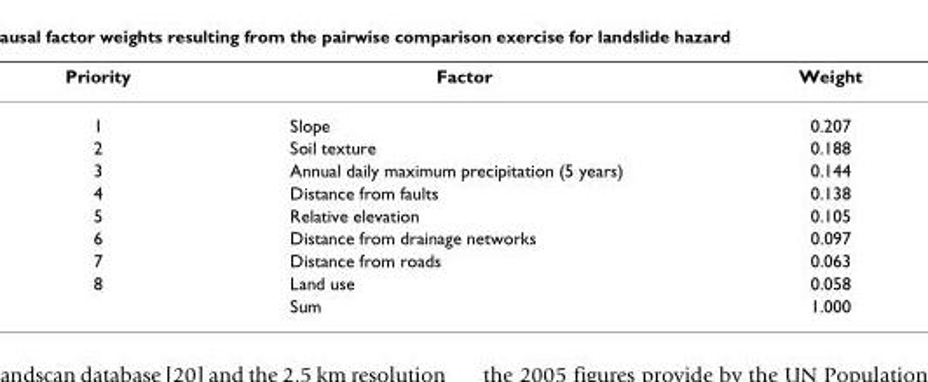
<table><thead><tr><td>Priority</td><td>Factor</td><td>Weight</td></tr></thead><tbody><tr><td>1</td><td>Slope</td><td>0.207</td></tr><tr><td>2</td><td>Soil texture</td><td>0.188</td></tr><tr><td>3</td><td>Annual daily maximum precipitation (5 years)</td><td>0.144</td></tr><tr><td>4</td><td>Distance from faults</td><td>0.138</td></tr><tr><td>5</td><td>Relative elevation</td><td>0.105</td></tr><tr><td>6</td><td>Distance from drainage networks</td><td>0.097</td></tr><tr><td>7</td><td>Distance from roads</td><td>0.063</td></tr><tr><td rowspan="2">8</td><td>Land use</td><td>0.058</td></tr><tr><td>Sum</td><td>1.000</td></tr></tbody></table>